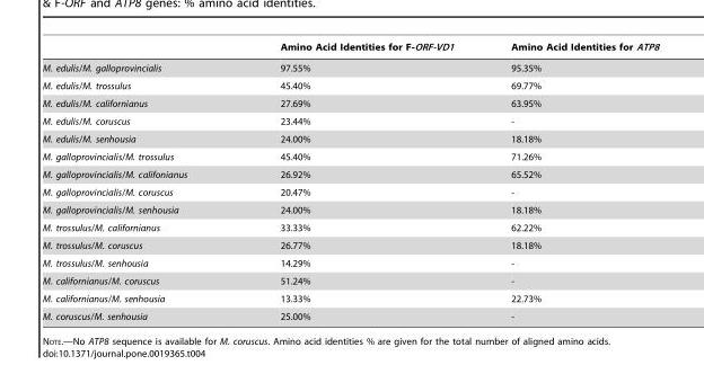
<table><thead><tr><td></td><td>Amino Acid Identities for F-ORF-VD1</td><td>Amino Acid Identities for ATP8</td></tr></thead><tbody><tr><td>M. edulis/M. galloprovincialis</td><td>97.55%</td><td>95.35%</td></tr><tr><td>M. edulis/M. trossulus</td><td>45.40%</td><td>69.77%</td></tr><tr><td>M. edulis/M. californianus</td><td>27.69%</td><td>63.95%</td></tr><tr><td>M. edulis/M. coruscus</td><td>23.44%</td><td>-</td></tr><tr><td>M. edulis/M. senhousia</td><td>24.00%</td><td>18.18%</td></tr><tr><td>M. galloprovincialis/M. trossulus</td><td>45.40%</td><td>71.26%</td></tr><tr><td>M. galloprovincialis/M. califonianus</td><td>26.92%</td><td>65.52%</td></tr><tr><td>M. galloprovincialis/M. coruscus</td><td>20.47%</td><td>-</td></tr><tr><td>M. galloprovincialis/M. senhousia</td><td>24.00%</td><td>18.18%</td></tr><tr><td>M. trossulus/M. californianus</td><td>33.33%</td><td>62.22%</td></tr><tr><td>M. trossulus/M. coruscus</td><td>26.77%</td><td>18.18%</td></tr><tr><td>M. trossulus/M. senhousia</td><td>14.29%</td><td>-</td></tr><tr><td>M. californianus/M. coruscus</td><td>51.24%</td><td>-</td></tr><tr><td>M. californianus/M. senhousia</td><td>13.33%</td><td>22.73%</td></tr><tr><td>M. coruscus/M. senhousia</td><td>25.00%</td><td>-</td></tr></tbody></table>